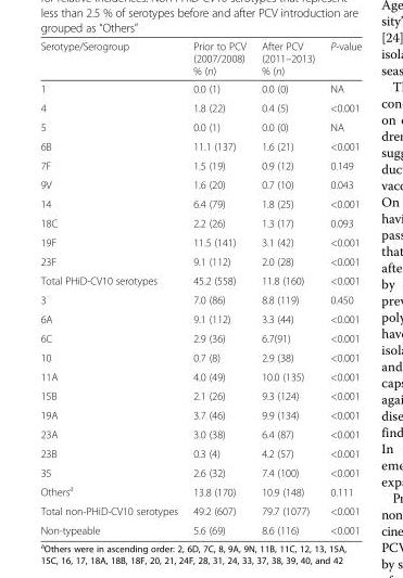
<table><thead><tr><td>Serotype/Serogroup</td><td>Prior to PCV (2007/2008) % (n)</td><td>After PCV (2011–2013) % (n)</td><td>P-value</td></tr></thead><tbody><tr><td>1</td><td>0.0 (1)</td><td>0.0 (0)</td><td>NA</td></tr><tr><td>4</td><td>1.8 (22)</td><td>0.4 (5)</td><td>&lt;0.001</td></tr><tr><td>5</td><td>0.0 (1)</td><td>0.0 (0)</td><td>NA</td></tr><tr><td>6B</td><td>11.1 (137)</td><td>1.6 (21)</td><td>&lt;0.001</td></tr><tr><td>7F</td><td>1.5 (19)</td><td>0.9 (12)</td><td>0.149</td></tr><tr><td>9V</td><td>1.6 (20)</td><td>0.7 (10)</td><td>0.043</td></tr><tr><td>14</td><td>6.4 (79)</td><td>1.8 (25)</td><td>&lt;0.001</td></tr><tr><td>18C</td><td>2.2 (26)</td><td>1.3 (17)</td><td>0.093</td></tr><tr><td>19F</td><td>11.5 (141)</td><td>3.1 (42)</td><td>&lt;0.001</td></tr><tr><td>23F</td><td>9.1 (112)</td><td>2.0 (28)</td><td>&lt;0.001</td></tr><tr><td>Total PHiD-CV10 serotypes</td><td>45.2 (558)</td><td>11.8 (160)</td><td>&lt;0.001</td></tr><tr><td>3</td><td>7.0 (86)</td><td>8.8 (119)</td><td>0.450</td></tr><tr><td>6A</td><td>9.1 (112)</td><td>3.3 (44)</td><td>&lt;0.001</td></tr><tr><td>6C</td><td>2.9 (36)</td><td>6.7(91)</td><td>&lt;0.001</td></tr><tr><td>10</td><td>0.7 (8)</td><td>2.9 (38)</td><td>&lt;0.001</td></tr><tr><td>11A</td><td>4.0 (49)</td><td>10.0 (135)</td><td>&lt;0.001</td></tr><tr><td>15B</td><td>2.1 (26)</td><td>9.3 (124)</td><td>&lt;0.001</td></tr><tr><td>19A</td><td>3.7 (46)</td><td>9.9 (134)</td><td>&lt;0.001</td></tr><tr><td>23A</td><td>3.0 (38)</td><td>6.4 (87)</td><td>&lt;0.001</td></tr><tr><td>23B</td><td>0.3 (4)</td><td>4.2 (57)</td><td>&lt;0.001</td></tr><tr><td>35</td><td>2.6 (32)</td><td>7.4 (100)</td><td>&lt;0.001</td></tr><tr><td>Others<sup>a</sup></td><td>13.8 (170)</td><td>10.9 (148)</td><td>0.111</td></tr><tr><td>Total non-PHiD-CV10 serotypes</td><td>49.2 (607)</td><td>79.7 (1077)</td><td>&lt;0.001</td></tr><tr><td>Non-typeable</td><td>5.6 (69)</td><td>8.6 (116)</td><td>&lt;0.001</td></tr></tbody></table>